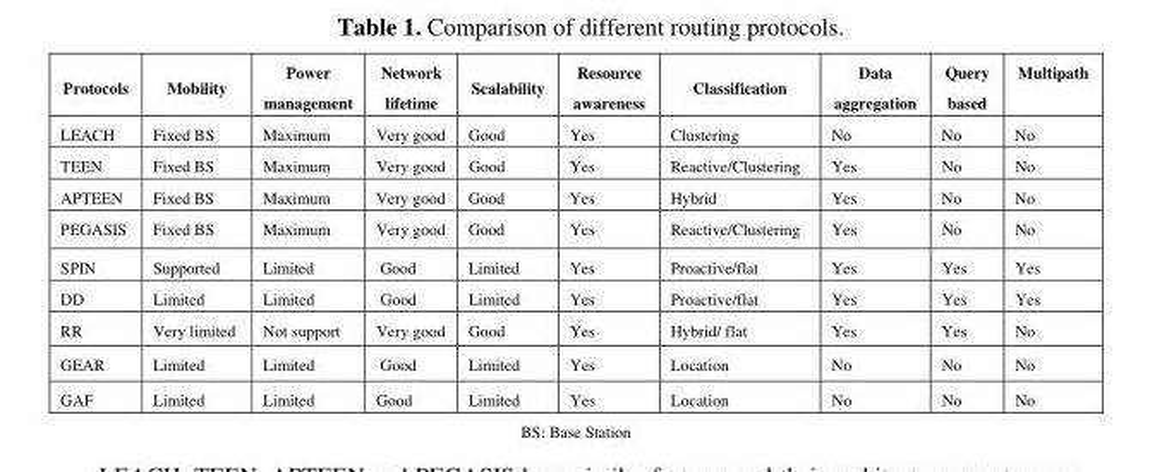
<table><thead><tr><td>Protocols</td><td>Mobility</td><td>Power management</td><td>Network lifetime</td><td>Scalability</td><td>Resource awareness</td><td>Classification</td><td>Data aggregation</td><td>Query based</td><td>Multipath</td></tr></thead><tbody><tr><td>LEACH</td><td>Fixed BS</td><td>Maximum</td><td>Very good</td><td>Good</td><td>Yes</td><td>Clustering</td><td>No</td><td>No</td><td>No</td></tr><tr><td>TEEN</td><td>Fixed BS</td><td>Maximum</td><td>Very good</td><td>Good</td><td>Yes</td><td>Reactive/Clustering</td><td>Yes</td><td>No</td><td>No</td></tr><tr><td>APTEEN</td><td>Fixed BS</td><td>Maximum</td><td>Very good</td><td>Good</td><td>Yes</td><td>Hybrid</td><td>Yes</td><td>No</td><td>No</td></tr><tr><td>PEGASIS</td><td>Fixed BS</td><td>Maximum</td><td>Very good</td><td>Good</td><td>Yes</td><td>Reactive/Clustering</td><td>Yes</td><td>No</td><td>No</td></tr><tr><td>SPIN</td><td>Supported</td><td>Limited</td><td>Good</td><td>Limited</td><td>Yes</td><td>Proactive/flat</td><td>Yes</td><td>Yes</td><td>Yes</td></tr><tr><td>DD</td><td>Limited</td><td>Limited</td><td>Good</td><td>Limited</td><td>Yes</td><td>Proactive/flat</td><td>Yes</td><td>Yes</td><td>Yes</td></tr><tr><td>RR</td><td>Very limited</td><td>Not support</td><td>Very good</td><td>Good</td><td>Yes</td><td>Hybrid/ flat</td><td>Yes</td><td>Yes</td><td>No</td></tr><tr><td>GEAR</td><td>Limited</td><td>Limited</td><td>Good</td><td>Limited</td><td>Yes</td><td>Location</td><td>No</td><td>No</td><td>No</td></tr><tr><td>GAF</td><td>Limited</td><td>Limited</td><td>Good</td><td>Limited</td><td>Yes</td><td>Location</td><td>No</td><td>No</td><td>No</td></tr></tbody></table>